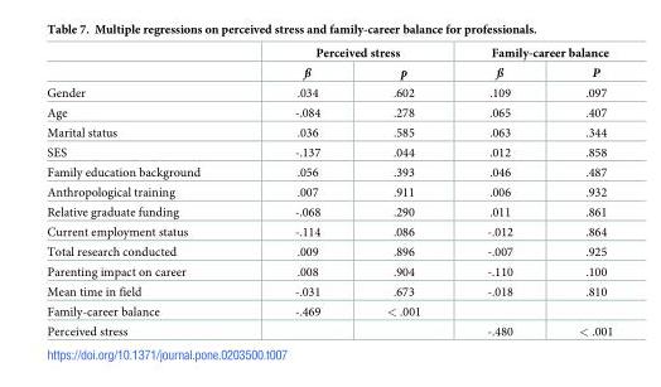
<table><thead><tr><td rowspan="2"></td><td colspan="2">Perceived stress</td><td colspan="2">Family-career balance</td></tr><tr><td>ß</td><td>p</td><td>ß</td><td>P</td></tr></thead><tbody><tr><td>Gender</td><td>.034</td><td>.602</td><td>.109</td><td>.097</td></tr><tr><td>Age</td><td>-.084</td><td>.278</td><td>.065</td><td>.407</td></tr><tr><td>Marital status</td><td>.036</td><td>.585</td><td>.063</td><td>.344</td></tr><tr><td>SES</td><td>-.137</td><td>.044</td><td>.012</td><td>.858</td></tr><tr><td>Family education background</td><td>.056</td><td>.393</td><td>.046</td><td>.487</td></tr><tr><td>Anthropological training</td><td>.007</td><td>.911</td><td>.006</td><td>.932</td></tr><tr><td>Relative graduate funding</td><td>-.068</td><td>.290</td><td>.011</td><td>.861</td></tr><tr><td>Current employment status</td><td>-.114</td><td>.086</td><td>-.012</td><td>.864</td></tr><tr><td>Total research conducted</td><td>.009</td><td>.896</td><td>-.007</td><td>.925</td></tr><tr><td>Parenting impact on career</td><td>.008</td><td>.904</td><td>-.110</td><td>.100</td></tr><tr><td>Mean time in field</td><td>-.031</td><td>.673</td><td>-.018</td><td>.810</td></tr><tr><td>Family-career balance</td><td>-.469</td><td>&lt; .001</td><td></td><td></td></tr><tr><td>Perceived stress</td><td></td><td></td><td>-.480</td><td>&lt; .001</td></tr></tbody></table>